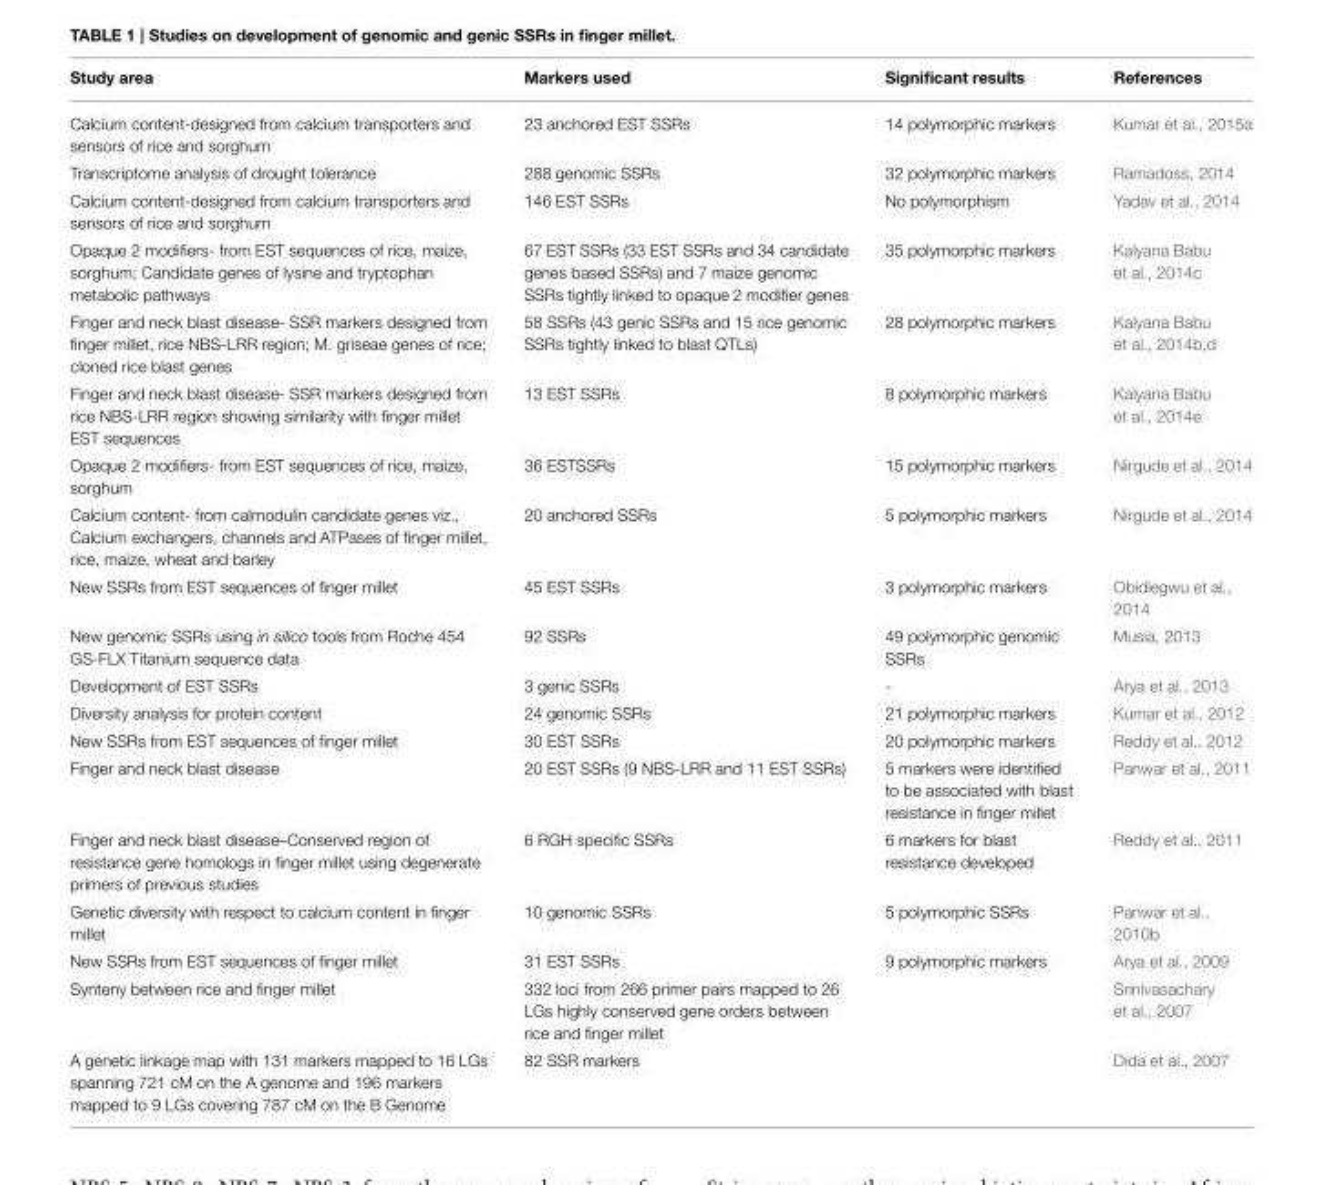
<table><thead><tr><td>Study area</td><td>Markers used</td><td>Significant results</td><td>References</td></tr></thead><tbody><tr><td>Calcium content-designed from calcium transporters and sensors of rice and sorghum</td><td>23 anchored EST SSRs</td><td>14 polymorphic markers</td><td>Kumar et al., 2015a</td></tr><tr><td>Transcriptome analysis of drought tolerance</td><td>288 genomic SSRs</td><td>32 polymorphic markers</td><td>Ramadoss, 2014</td></tr><tr><td>Calcium content-designed from calcium transporters and sensors of rice and sorghum</td><td>146 EST SSRs</td><td>No polymorphism</td><td>Yadav et al., 2014</td></tr><tr><td>Opaque 2 modifiers- from EST sequences of rice, maize, sorghum; Candidate genes of lysine and tryptophan metabolic pathways</td><td>67 EST SSRs (33 EST SSRs and 34 candidate genes based SSRs) and 7 maize genomic SSRs tightly linked to opaque 2 modifier genes</td><td>35 polymorphic markers</td><td>Kalyana Babu et al., 2014c</td></tr><tr><td>Finger and neck blast disease- SSR markers designed from finger millet, rice NBS-LRR region; M. griseae genes of rice; cloned rice blast genes</td><td>58 SSRs (43 genic SSRs and 15 rice genomic SSRs tightly linked to blast QTLs)</td><td>28 polymorphic markers</td><td>Kalyana Babu et al., 2014b,d</td></tr><tr><td>Finger and neck blast disease- SSR markers designed from rice NBS-LRR region showing similarity with finger millet EST sequences</td><td>13 EST SSRs</td><td>8 polymorphic markers</td><td>Kalyana Babu et al., 2014e</td></tr><tr><td>Opaque 2 modifiers- from EST sequences of rice, maize, sorghum</td><td>36 ESTSSRs</td><td>15 polymorphic markers</td><td>Nirgude et al., 2014</td></tr><tr><td>Calcium content- from calmodulin candidate genes viz., Calcium exchangers, channels and ATPases of finger millet, rice, maize, wheat and barley</td><td>20 anchored SSRs</td><td>5 polymorphic markers</td><td>Nirgude et al., 2014</td></tr><tr><td>New SSRs from EST sequences of finger millet</td><td>45 EST SSRs</td><td>3 polymorphic markers</td><td>Obidiegwu et al., 2014</td></tr><tr><td>New genomic SSRs using in silico tools from Roche 454 GS-FLX Titanium sequence data</td><td>92 SSRs</td><td>49 polymorphic genomic SSRs</td><td>Musia, 2013</td></tr><tr><td>Development of EST SSRs</td><td>3 genic SSRs</td><td>-</td><td>Arya et al., 2013</td></tr><tr><td>Diversity analysis for protein content</td><td>24 genomic SSRs</td><td>21 polymorphic markers</td><td>Kumar et al., 2012</td></tr><tr><td>New SSRs from EST sequences of finger millet</td><td>30 EST SSRs</td><td>20 polymorphic markers</td><td>Reddy et al., 2012</td></tr><tr><td>Finger and neck blast disease</td><td>20 EST SSRs (9 NBS-LRR and 11 EST SSRs)</td><td>5 markers were identified to be associated with blast resistance in finger millet</td><td>Panwar et al., 2011</td></tr><tr><td>Finger and neck blast disease–Conserved region of resistance gene homologs in finger millet using degenerate primers of previous studies</td><td>6 RGH specific SSRs</td><td>6 markers for blast resistance developed</td><td>Reddy et al., 2011</td></tr><tr><td>Genetic diversity with respect to calcium content in finger millet</td><td>10 genomic SSRs</td><td>5 polymorphic SSRs</td><td>Panwar et al., 2010b</td></tr><tr><td>New SSRs from EST sequences of finger millet</td><td>31 EST SSRs</td><td>9 polymorphic markers</td><td>Arya et al., 2009</td></tr><tr><td>Synteny between rice and finger millet</td><td>332 loci from 266 primer pairs mapped to 26 LGs highly conserved gene orders between rice and finger millet</td><td></td><td>Srinivasachary et al., 2007</td></tr><tr><td>A genetic linkage map with 131 markers mapped to 16 LGs spanning 721 cM on the A genome and 196 markers mapped to 9 LGs covering 787 cM on the B Genome</td><td>82 SSR markers</td><td></td><td>Dida et al., 2007</td></tr></tbody></table>